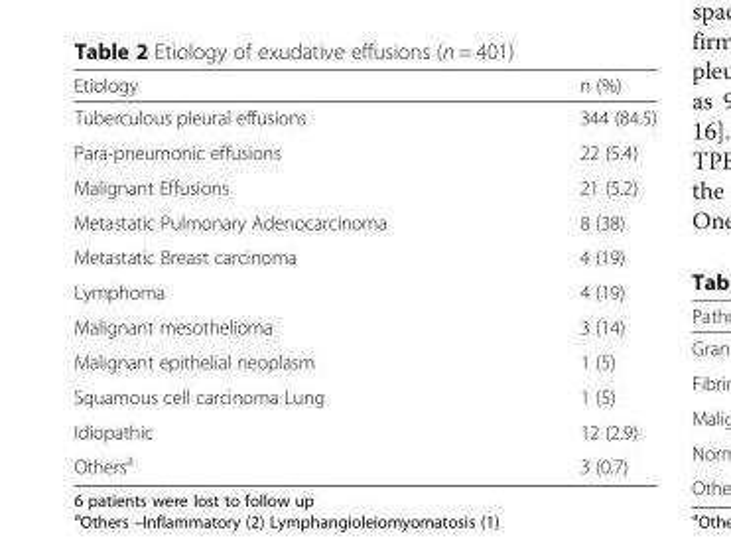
<table><thead><tr><td>Etiology</td><td>n (%)</td></tr></thead><tbody><tr><td>Tuberculous pleural effusions</td><td>344 (84.5)</td></tr><tr><td>Para-pneumonic effusions</td><td>22 (5.4)</td></tr><tr><td>Malignant Effusions</td><td>21 (5.2)</td></tr><tr><td>Metastatic Pulmonary Adenocarcinoma</td><td>8 (38)</td></tr><tr><td>Metastatic Breast carcinoma</td><td>4 (19)</td></tr><tr><td>Lymphoma</td><td>4 (19)</td></tr><tr><td>Malignant mesothelioma</td><td>3 (14)</td></tr><tr><td>Malignant epithelial neoplasm</td><td>1 (5)</td></tr><tr><td>Squamous cell carcinoma Lung</td><td>1 (5)</td></tr><tr><td>Idiopathic</td><td>12 (2.9)</td></tr><tr><td>Others<sup>a</sup></td><td>3 (0.7)</td></tr></tbody></table>